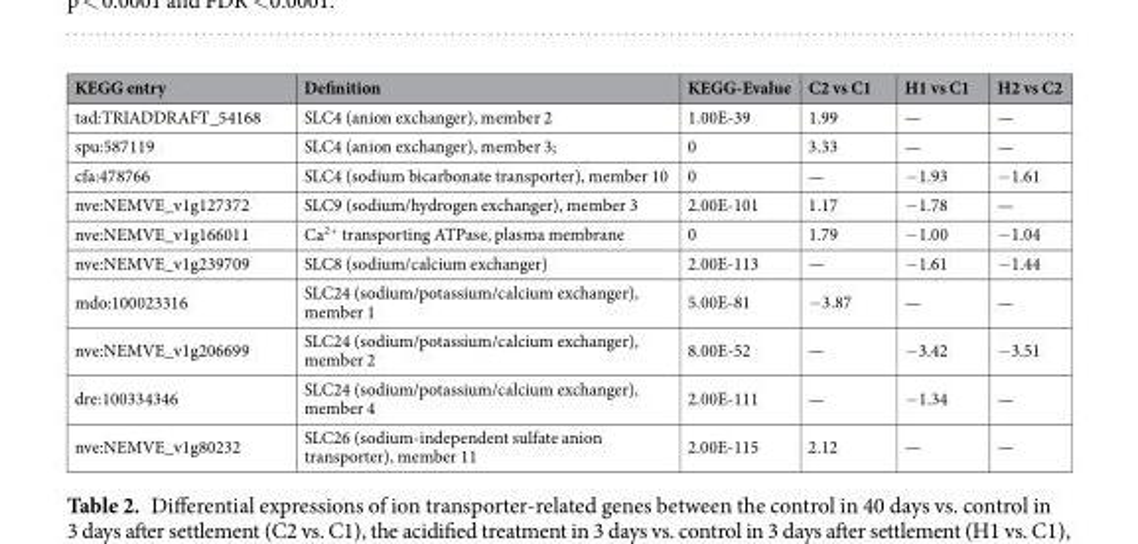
<table><thead><tr><td>KEGG entry</td><td>Definition</td><td>KEGG-Evalue</td><td>C2 vs C1</td><td>H1 vs C1</td><td>H2 vs C2</td></tr></thead><tbody><tr><td>tad:TRIADDRAFT_54168</td><td>SLC4 (anion exchanger), member 2</td><td>1.00E-39</td><td>1.99</td><td>—</td><td>—</td></tr><tr><td>spu:587119</td><td>SLC4 (anion exchanger), member 3;</td><td>0</td><td>3.33</td><td>—</td><td>—</td></tr><tr><td>cfa:478766</td><td>SLC4 (sodium bicarbonate transporter), member 10</td><td>0</td><td>—</td><td>−1.93</td><td>−1.61</td></tr><tr><td>nve:NEMVE_v1g127372</td><td>SLC9 (sodium/hydrogen exchanger), member 3</td><td>2.00E-101</td><td>1.17</td><td>−1.78</td><td>—</td></tr><tr><td>nve:NEMVE_v1g166011</td><td>Ca<sup>2+</sup> transporting ATPase, plasma membrane</td><td>0</td><td>1.79</td><td>−1.00</td><td>−1.04</td></tr><tr><td>nve:NEMVE_v1g239709</td><td>SLC8 (sodium/calcium exchanger)</td><td>2.00E-113</td><td>—</td><td>−1.61</td><td>−1.44</td></tr><tr><td>mdo:100023316</td><td>SLC24 (sodium/potassium/calcium exchanger), member 1</td><td>5.00E-81</td><td>−3.87</td><td>—</td><td>—</td></tr><tr><td>nve:NEMVE_v1g206699</td><td>SLC24 (sodium/potassium/calcium exchanger), member 2</td><td>8.00E-52</td><td>—</td><td>−3.42</td><td>−3.51</td></tr><tr><td>dre:100334346</td><td>SLC24 (sodium/potassium/calcium exchanger), member 4</td><td>2.00E-111</td><td>—</td><td>−1.34</td><td>—</td></tr><tr><td>nve:NEMVE_v1g80232</td><td>SLC26 (sodium-independent sulfate anion transporter), member 11</td><td>2.00E-115</td><td>2.12</td><td>—</td><td>—</td></tr></tbody></table>